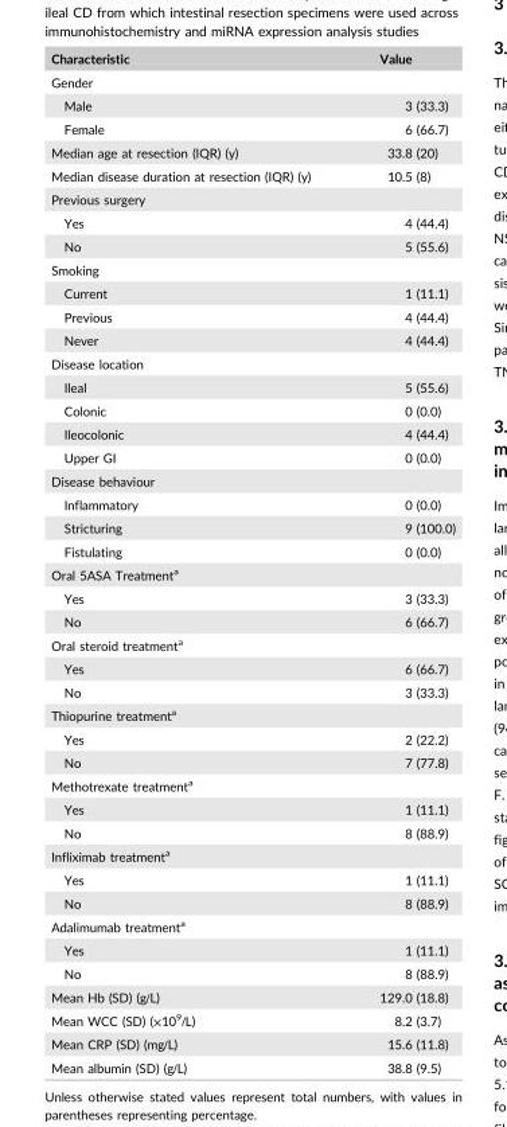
<table><thead><tr><td>Characteristic</td><td>Value</td></tr></thead><tbody><tr><td colspan="2">Gender</td></tr><tr><td>Male</td><td>3 (33.3)</td></tr><tr><td>Female</td><td>6 (66.7)</td></tr><tr><td>Median age at resection (IQR) (y)</td><td>33.8 (20)</td></tr><tr><td>Median disease duration at resection (IQR) (y)</td><td>10.5 (8)</td></tr><tr><td colspan="2">Previous surgery</td></tr><tr><td>Yes</td><td>4 (44.4)</td></tr><tr><td>No</td><td>5 (55.6)</td></tr><tr><td colspan="2">Smoking</td></tr><tr><td>Current</td><td>1 (11.1)</td></tr><tr><td>Previous</td><td>4 (44.4)</td></tr><tr><td>Never</td><td>4 (44.4)</td></tr><tr><td colspan="2">Disease location</td></tr><tr><td>Ileal</td><td>5 (55.6)</td></tr><tr><td>Colonic</td><td>0 (0.0)</td></tr><tr><td>Ileocolonic</td><td>4 (44.4)</td></tr><tr><td>Upper GI</td><td>0 (0.0)</td></tr><tr><td colspan="2">Disease behaviour</td></tr><tr><td>Inflammatory</td><td>0 (0.0)</td></tr><tr><td>Stricturing</td><td>9 (100.0)</td></tr><tr><td>Fistulating</td><td>0 (0.0)</td></tr><tr><td colspan="2">Oral 5ASA Treatment<sup>a</sup></td></tr><tr><td>Yes</td><td>3 (33.3)</td></tr><tr><td>No</td><td>6 (66.7)</td></tr><tr><td colspan="2">Oral steroid treatment<sup>a</sup></td></tr><tr><td>Yes</td><td>6 (66.7)</td></tr><tr><td>No</td><td>3 (33.3)</td></tr><tr><td colspan="2">Thiopurine treatment<sup>a</sup></td></tr><tr><td>Yes</td><td>2 (22.2)</td></tr><tr><td>No</td><td>7 (77.8)</td></tr><tr><td colspan="2">Methotrexate treatment<sup>a</sup></td></tr><tr><td>Yes</td><td>1 (11.1)</td></tr><tr><td>No</td><td>8 (88.9)</td></tr><tr><td colspan="2">Infliximab treatment<sup>a</sup></td></tr><tr><td>Yes</td><td>1 (11.1)</td></tr><tr><td>No</td><td>8 (88.9)</td></tr><tr><td colspan="2">Adalimumab treatment<sup>a</sup></td></tr><tr><td>Yes</td><td>1 (11.1)</td></tr><tr><td>No</td><td>8 (88.9)</td></tr><tr><td>Mean Hb (SD) (g/L)</td><td>129.0 (18.8)</td></tr><tr><td>Mean WCC (SD) (×10<sup>9</sup>/L)</td><td>8.2 (3.7)</td></tr><tr><td>Mean CRP (SD) (mg/L)</td><td>15.6 (11.8)</td></tr><tr><td>Mean albumin (SD) (g/L)</td><td>38.8 (9.5)</td></tr></tbody></table>